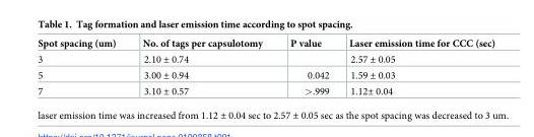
<table><thead><tr><td>Spot spacing (um)</td><td>No. of tags per capsulotomy</td><td>P value</td><td>Laser emission time for CCC (sec)</td></tr></thead><tbody><tr><td>3</td><td>2.10 ± 0.74</td><td></td><td>2.57 ± 0.05</td></tr><tr><td>5</td><td>3.00 ± 0.94</td><td>0.042</td><td>1.59 ± 0.03</td></tr><tr><td>7</td><td>3.10 ± 0.57</td><td>&gt;.999</td><td>1.12± 0.04</td></tr></tbody></table>